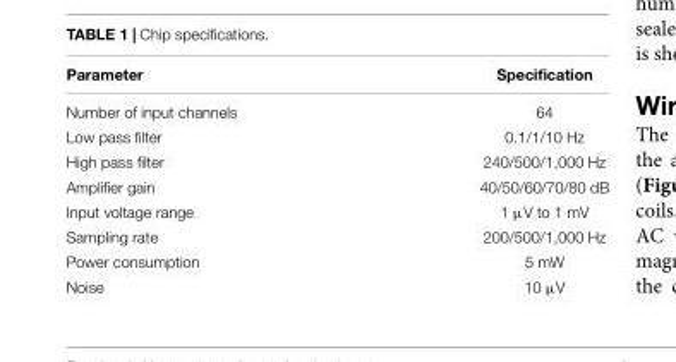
<table><thead><tr><td>Parameter</td><td>Specification</td></tr></thead><tbody><tr><td>Number of input channels</td><td>64</td></tr><tr><td>Low pass filter</td><td>0.1/1/10 Hz</td></tr><tr><td>High pass filter</td><td>240/500/1,000 Hz</td></tr><tr><td>Amplifier gain</td><td>40/50/60/70/80 dB</td></tr><tr><td>Input voltage range</td><td>1 µV to 1 mV</td></tr><tr><td>Sampling rate</td><td>200/500/1,000 Hz</td></tr><tr><td>Power consumption</td><td>5 mW</td></tr><tr><td>Noise</td><td>10 µV</td></tr></tbody></table>